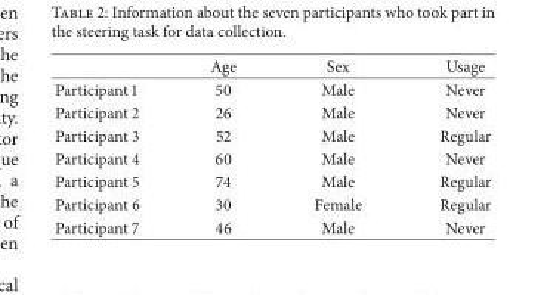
<table><thead><tr><td></td><td>Age</td><td>Sex</td><td>Usage</td></tr></thead><tbody><tr><td>Participant 1</td><td>50</td><td>Male</td><td>Never</td></tr><tr><td>Participant 2</td><td>26</td><td>Male</td><td>Never</td></tr><tr><td>Participant 3</td><td>52</td><td>Male</td><td>Regular</td></tr><tr><td>Participant 4</td><td>60</td><td>Male</td><td>Never</td></tr><tr><td>Participant 5</td><td>74</td><td>Male</td><td>Regular</td></tr><tr><td>Participant 6</td><td>30</td><td>Female</td><td>Regular</td></tr><tr><td>Participant 7</td><td>46</td><td>Male</td><td>Never</td></tr></tbody></table>